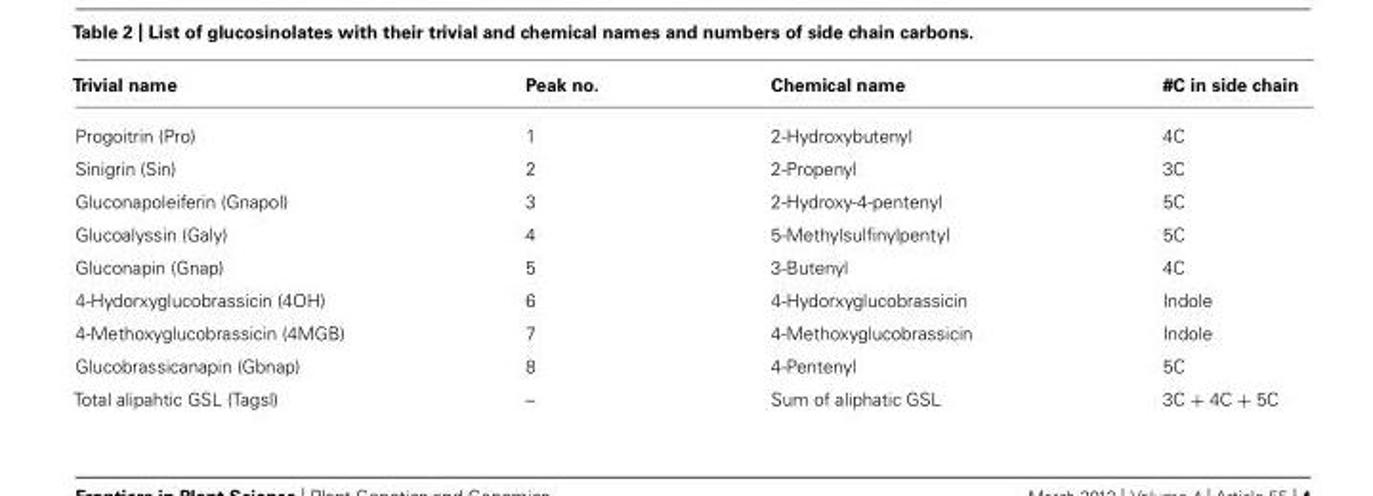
<table><thead><tr><td>Trivial name</td><td>Peak no.</td><td>Chemical name</td><td>#C in side chain</td></tr></thead><tbody><tr><td>Progoitrin (Pro)</td><td>1</td><td>2-Hydroxybutenyl</td><td>4C</td></tr><tr><td>Sinigrin (Sin)</td><td>2</td><td>2-Propenyl</td><td>3C</td></tr><tr><td>Gluconapoleiferin (Gnapol)</td><td>3</td><td>2-Hydroxy-4-pentenyl</td><td>5C</td></tr><tr><td>Glucoalyssin (Galy)</td><td>4</td><td>5-Methylsulfinylpentyl</td><td>5C</td></tr><tr><td>Gluconapin (Gnap)</td><td>5</td><td>3-Butenyl</td><td>4C</td></tr><tr><td>4-Hydorxyglucobrassicin (4OH)</td><td>6</td><td>4-Hydorxyglucobrassicin</td><td>Indole</td></tr><tr><td>4-Methoxyglucobrassicin (4MGB)</td><td>7</td><td>4-Methoxyglucobrassicin</td><td>Indole</td></tr><tr><td>Glucobrassicanapin (Gbnap)</td><td>8</td><td>4-Pentenyl</td><td>5C</td></tr><tr><td>Total alipahtic GSL (Tagsl)</td><td>–</td><td>Sum of aliphatic GSL</td><td>3C + 4C + 5C</td></tr></tbody></table>